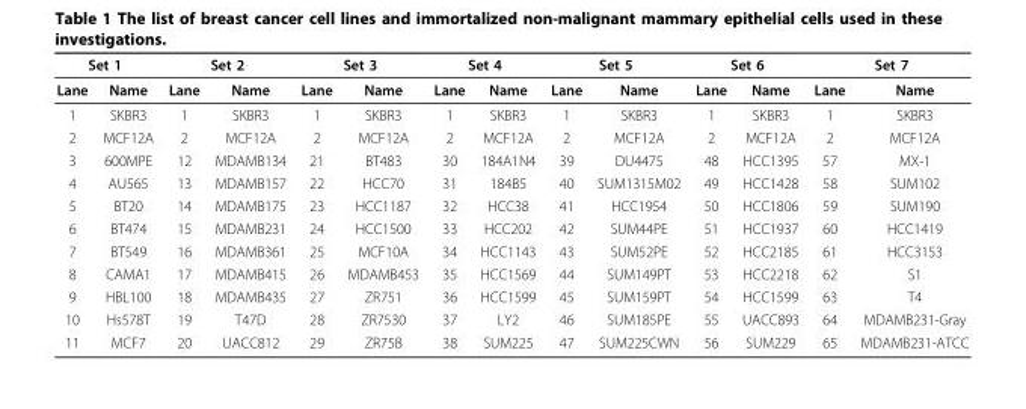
<table><thead><tr><td colspan="2">Set 1</td><td colspan="2">Set 2</td><td colspan="2">Set 3</td><td colspan="2">Set 4</td><td colspan="2">Set 5</td><td colspan="2">Set 6</td><td colspan="2">Set 7</td></tr><tr><td>Lane</td><td>Name</td><td>Lane</td><td>Name</td><td>Lane</td><td>Name</td><td>Lane</td><td>Name</td><td>Lane</td><td>Name</td><td>Lane</td><td>Name</td><td>Lane</td><td>Name</td></tr></thead><tbody><tr><td>1</td><td>SKBR3</td><td>1</td><td>SKBR3</td><td>1</td><td>SKBR3</td><td>1</td><td>SKBR3</td><td>1</td><td>SKBR3</td><td>1</td><td>SKBR3</td><td>1</td><td>SKBR3</td></tr><tr><td>2</td><td>MCF12A</td><td>2</td><td>MCF12A</td><td>2</td><td>MCF12A</td><td>2</td><td>MCF12A</td><td>2</td><td>MCF12A</td><td>2</td><td>MCF12A</td><td>2</td><td>MCF12A</td></tr><tr><td>3</td><td>600MPE</td><td>12</td><td>MDAMB134</td><td>21</td><td>BT483</td><td>30</td><td>184A1N4</td><td>39</td><td>DU4475</td><td>48</td><td>HCC1395</td><td>57</td><td>MX-1</td></tr><tr><td>4</td><td>AU565</td><td>13</td><td>MDAMB157</td><td>22</td><td>HCC70</td><td>31</td><td>184B5</td><td>40</td><td>SUM1315M02</td><td>49</td><td>HCC1428</td><td>58</td><td>SUM102</td></tr><tr><td>5</td><td>BT20</td><td>14</td><td>MDAMB175</td><td>23</td><td>HCC1187</td><td>32</td><td>HCC38</td><td>41</td><td>HCC1954</td><td>50</td><td>HCC1806</td><td>59</td><td>SUM190</td></tr><tr><td>6</td><td>BT474</td><td>15</td><td>MDAMB231</td><td>24</td><td>HCC1500</td><td>33</td><td>HCC202</td><td>42</td><td>SUM44PE</td><td>51</td><td>HCC1937</td><td>60</td><td>HCC1419</td></tr><tr><td>7</td><td>BT549</td><td>16</td><td>MDAMB361</td><td>25</td><td>MCF10A</td><td>34</td><td>HCC1143</td><td>43</td><td>SUM52PE</td><td>52</td><td>HCC2185</td><td>61</td><td>HCC3153</td></tr><tr><td>8</td><td>CAMA1</td><td>17</td><td>MDAMB415</td><td>26</td><td>MDAMB453</td><td>35</td><td>HCC1569</td><td>44</td><td>SUM149PT</td><td>53</td><td>HCC2218</td><td>62</td><td>S1</td></tr><tr><td>9</td><td>HBL100</td><td>18</td><td>MDAMB435</td><td>27</td><td>ZR751</td><td>36</td><td>HCC1599</td><td>45</td><td>SUM159PT</td><td>54</td><td>HCC1599</td><td>63</td><td>T4</td></tr><tr><td>10</td><td>Hs578T</td><td>19</td><td>T47D</td><td>28</td><td>ZR7530</td><td>37</td><td>LY2</td><td>46</td><td>SUM185PE</td><td>55</td><td>UACC893</td><td>64</td><td>MDAMB231-Gray</td></tr><tr><td>11</td><td>MCF7</td><td>20</td><td>UACC812</td><td>29</td><td>ZR75B</td><td>38</td><td>SUM225</td><td>47</td><td>SUM225CWN</td><td>56</td><td>SUM229</td><td>65</td><td>MDAMB231-ATCC</td></tr></tbody></table>